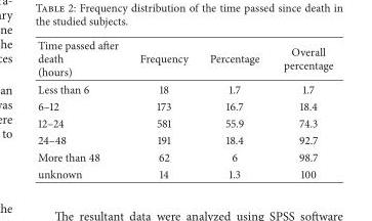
<table><thead><tr><td>Time passed after death (hours)</td><td>Frequency</td><td>Percentage</td><td>Overall percentage</td></tr></thead><tbody><tr><td>Less than 6</td><td>18</td><td>1.7</td><td>1.7</td></tr><tr><td>6–12</td><td>173</td><td>16.7</td><td>18.4</td></tr><tr><td>12–24</td><td>581</td><td>55.9</td><td>74.3</td></tr><tr><td>24–48</td><td>191</td><td>18.4</td><td>92.7</td></tr><tr><td>More than 48</td><td>62</td><td>6</td><td>98.7</td></tr><tr><td>unknown</td><td>14</td><td>1.3</td><td>100</td></tr></tbody></table>